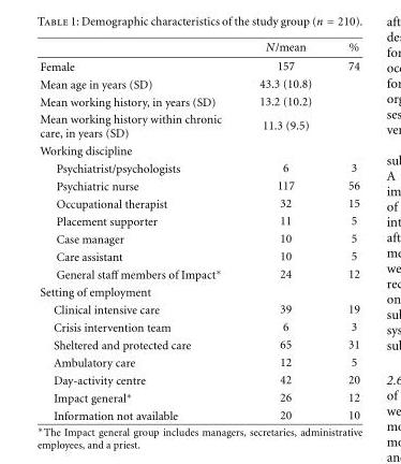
<table><thead><tr><td></td><td>N/mean</td><td>%</td></tr></thead><tbody><tr><td>Female</td><td>157</td><td>74</td></tr><tr><td>Mean age in years (SD)</td><td>43.3 (10.8)</td><td></td></tr><tr><td>Mean working history, in years (SD)</td><td>13.2 (10.2)</td><td></td></tr><tr><td>Mean working history within chronic care, in years (SD)</td><td>11.3 (9.5)</td><td></td></tr><tr><td colspan="3">Working discipline</td></tr><tr><td>Psychiatrist/psychologists</td><td>6</td><td>3</td></tr><tr><td>Psychiatric nurse</td><td>117</td><td>56</td></tr><tr><td>Occupational therapist</td><td>32</td><td>15</td></tr><tr><td>Placement supporter</td><td>11</td><td>5</td></tr><tr><td>Case manager</td><td>10</td><td>5</td></tr><tr><td>Care assistant</td><td>10</td><td>5</td></tr><tr><td>General staff members of Impact∗</td><td>24</td><td>12</td></tr><tr><td colspan="3">Setting of employment</td></tr><tr><td>Clinical intensive care</td><td>39</td><td>19</td></tr><tr><td>Crisis intervention team</td><td>6</td><td>3</td></tr><tr><td>Sheltered and protected care</td><td>65</td><td>31</td></tr><tr><td>Ambulatory care</td><td>12</td><td>5</td></tr><tr><td>Day-activity centre</td><td>42</td><td>20</td></tr><tr><td>Impact general∗</td><td>26</td><td>12</td></tr><tr><td>Information not available</td><td>20</td><td>10</td></tr></tbody></table>